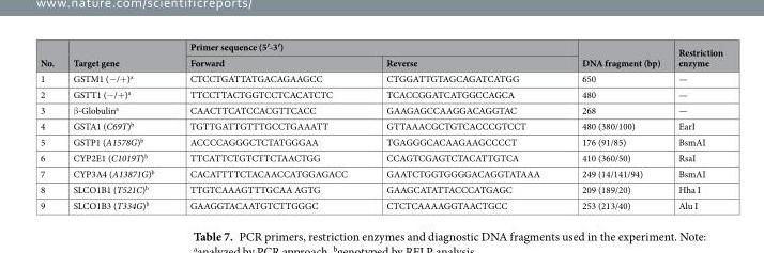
<table><thead><tr><td rowspan="2">No.</td><td rowspan="2">Target gene</td><td colspan="2">Primer sequence (5′-3′)</td><td rowspan="2">DNA fragment (bp)</td><td rowspan="2">Restriction enzyme</td></tr><tr><td>Forward</td><td>Reverse</td></tr></thead><tbody><tr><td>1</td><td>GSTM1 (−/+)<sup>a</sup></td><td>CTCCTGATTATGACAGAAGCC</td><td>CTGGATTGTAGCAGATCATGG</td><td>650</td><td>—</td></tr><tr><td>2</td><td>GSTT1 (−/+)<sup>a</sup></td><td>TTCCTTACTGGTCCTCACATCTC</td><td>TCACCGGATCATGGCCAGCA</td><td>480</td><td>—</td></tr><tr><td>3</td><td>β-Globulin<sup>a</sup></td><td>CAACTTCATCCACGTTCACC</td><td>GAAGAGCCAAGGACAGGTAC</td><td>268</td><td>—</td></tr><tr><td>4</td><td>GSTA1 (C69T)<sup>b</sup></td><td>TGTTGATTGTTTGCCTGAAATT</td><td>GTTAAACGCTGTCACCCGTCCT</td><td>480 (380/100)</td><td>EarI</td></tr><tr><td>5</td><td>GSTP1 (A1578G)<sup>b</sup></td><td>ACCCCAGGGCTCTATGGGAA</td><td>TGAGGGCACAAGAAGCCCCT</td><td>176 (91/85)</td><td>BsmAI</td></tr><tr><td>6</td><td>CYP2E1 (C1019T)<sup>b</sup></td><td>TTCATTCTGTCTTCTAACTGG</td><td>CCAGTCGAGTCTACATTGTCA</td><td>410 (360/50)</td><td>RsaI</td></tr><tr><td>7</td><td>CYP3A4 (A13871G)<sup>b</sup></td><td>CACATTTTCTACAACCATGGAGACC</td><td>GAATCTGGTGGGGACAGGTATAAA</td><td>249 (14/141/94)</td><td>BsmAI</td></tr><tr><td>8</td><td>SLCO1B1 (T521C)<sup>b</sup></td><td>TTGTCAAAGTTTGCAA AGTG</td><td>GAAGCATATTACCCATGAGC</td><td>209 (189/20)</td><td>Hha I</td></tr><tr><td>9</td><td>SLCO1B3 (T334G)<sup>b</sup></td><td>GAAGGTACAATGTCTTGGGC</td><td>CTCTCAAAAGGTAACTGCC</td><td>253 (213/40)</td><td>Alu I</td></tr></tbody></table>